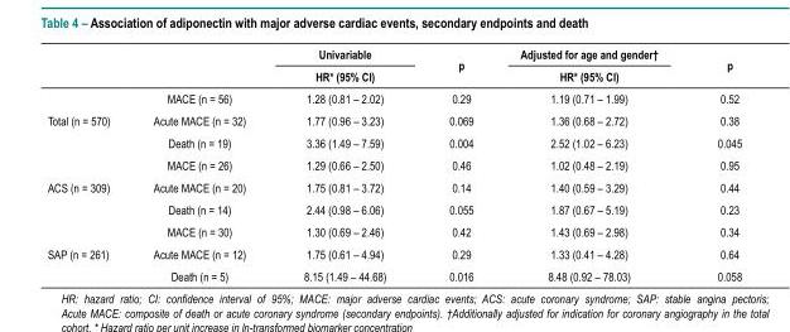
<table><thead><tr><td rowspan="2"></td><td rowspan="2"></td><td rowspan="2">Univariable HR* (95% CI)</td><td rowspan="2">p</td><td rowspan="2">Adjusted for age and gender† HR* (95% CI)</td><td rowspan="2">p</td></tr><tr></tr></thead><tbody><tr><td rowspan="3">Total (n = 570)</td><td>MACE (n = 56)</td><td>1.28 (0.81 – 2.02)</td><td>0.29</td><td>1.19 (0.71 – 1.99)</td><td>0.52</td></tr><tr><td>Acute MACE (n = 32)</td><td>1.77 (0.96 – 3.23)</td><td>0.069</td><td>1.36 (0.68 – 2.72)</td><td>0.38</td></tr><tr><td>Death (n = 19)</td><td>3.36 (1.49 – 7.59)</td><td>0.004</td><td>2.52 (1.02 – 6.23)</td><td>0.045</td></tr><tr><td rowspan="3">ACS (n = 309)</td><td>MACE (n = 26)</td><td>1.29 (0.66 – 2.50)</td><td>0.46</td><td>1.02 (0.48 – 2.19)</td><td>0.95</td></tr><tr><td>Acute MACE (n = 20)</td><td>1.75 (0.81 – 3.72)</td><td>0.14</td><td>1.40 (0.59 – 3.29)</td><td>0.44</td></tr><tr><td>Death (n = 14)</td><td>2.44 (0.98 – 6.06)</td><td>0.055</td><td>1.87 (0.67 – 5.19)</td><td>0.23</td></tr><tr><td rowspan="3">SAP (n = 261)</td><td>MACE (n = 30)</td><td>1.30 (0.69 – 2.46)</td><td>0.42</td><td>1.43 (0.69 – 2.98)</td><td>0.34</td></tr><tr><td>Acute MACE (n = 12)</td><td>1.75 (0.61 – 4.94)</td><td>0.29</td><td>1.33 (0.41 – 4.28)</td><td>0.64</td></tr><tr><td>Death (n = 5)</td><td>8.15 (1.49 – 44.68)</td><td>0.016</td><td>8.48 (0.92 – 78.03)</td><td>0.058</td></tr></tbody></table>